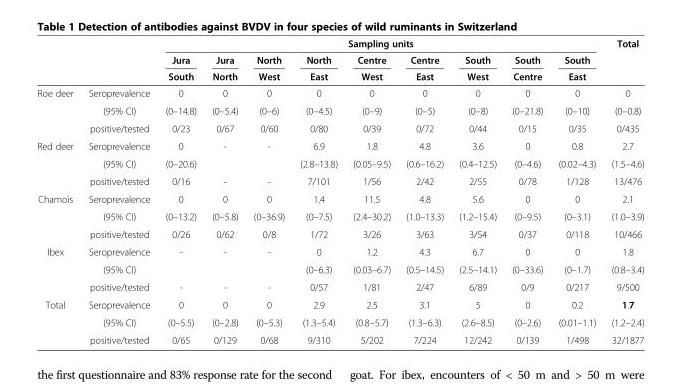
<table><thead><tr><td rowspan="3"></td><td rowspan="3"></td><td colspan="9">Sampling units</td><td rowspan="3">Total</td></tr><tr><td rowspan="2">Jura South</td><td rowspan="2">Jura North</td><td rowspan="2">North West</td><td rowspan="2">North East</td><td rowspan="2">Centre West</td><td rowspan="2">Centre East</td><td rowspan="2">South West</td><td rowspan="2">South Centre</td><td rowspan="2">South East</td></tr><tr></tr></thead><tbody><tr><td rowspan="3">Roe deer</td><td>Seroprevalence</td><td>0</td><td>0</td><td>0</td><td>0</td><td>0</td><td>0</td><td>0</td><td>0</td><td>0</td><td>0</td></tr><tr><td>(95% CI)</td><td>(0–14.8)</td><td>(0–5.4)</td><td>(0–6)</td><td>(0–4.5)</td><td>(0–9)</td><td>(0–5)</td><td>(0–8)</td><td>(0–21.8)</td><td>(0–10)</td><td>(0–0.8)</td></tr><tr><td>positive/tested</td><td>0/23</td><td>0/67</td><td>0/60</td><td>0/80</td><td>0/39</td><td>0/72</td><td>0/44</td><td>0/15</td><td>0/35</td><td>0/435</td></tr><tr><td rowspan="3">Red deer</td><td>Seroprevalence</td><td>0</td><td>-</td><td>-</td><td>6.9</td><td>1.8</td><td>4.8</td><td>3.6</td><td>0</td><td>0.8</td><td>2.7</td></tr><tr><td>(95% CI)</td><td>(0–20.6)</td><td></td><td></td><td>(2.8–13.8)</td><td>(0.05–9.5)</td><td>(0.6–16.2)</td><td>(0.4–12.5)</td><td>(0–4.6)</td><td>(0.02–4.3)</td><td>(1.5–4.6)</td></tr><tr><td>positive/tested</td><td>0/16</td><td>-</td><td>-</td><td>7/101</td><td>1/56</td><td>2/42</td><td>2/55</td><td>0/78</td><td>1/128</td><td>13/476</td></tr><tr><td rowspan="3">Chamois</td><td>Seroprevalence</td><td>0</td><td>0</td><td>0</td><td>1.4</td><td>11.5</td><td>4.8</td><td>5.6</td><td>0</td><td>0</td><td>2.1</td></tr><tr><td>(95% CI)</td><td>(0–13.2)</td><td>(0–5.8)</td><td>(0–36.9)</td><td>(0–7.5)</td><td>(2.4–30.2)</td><td>(1.0–13.3)</td><td>(1.2–15.4)</td><td>(0–9.5)</td><td>(0–3.1)</td><td>(1.0–3.9)</td></tr><tr><td>positive/tested</td><td>0/26</td><td>0/62</td><td>0/8</td><td>1/72</td><td>3/26</td><td>3/63</td><td>3/54</td><td>0/37</td><td>0/118</td><td>10/466</td></tr><tr><td rowspan="3">Ibex</td><td>Seroprevalence</td><td>-</td><td>-</td><td>-</td><td>0</td><td>1.2</td><td>4.3</td><td>6.7</td><td>0</td><td>0</td><td>1.8</td></tr><tr><td>(95% CI)</td><td></td><td></td><td></td><td>(0–6.3)</td><td>(0.03–6.7)</td><td>(0.5–14.5)</td><td>(2.5–14.1)</td><td>(0–33.6)</td><td>(0–1.7)</td><td>(0.8–3.4)</td></tr><tr><td>positive/tested</td><td>-</td><td>-</td><td>-</td><td>0/57</td><td>1/81</td><td>2/47</td><td>6/89</td><td>0/9</td><td>0/217</td><td>9/500</td></tr><tr><td rowspan="3">Total</td><td>Seroprevalence</td><td>0</td><td>0</td><td>0</td><td>2.9</td><td>2.5</td><td>3.1</td><td>5</td><td>0</td><td>0.2</td><td>1.7</td></tr><tr><td>(95% CI)</td><td>(0–5.5)</td><td>(0–2.8)</td><td>(0–5.3)</td><td>(1.3–5.4)</td><td>(0.8–5.7)</td><td>(1.3–6.3)</td><td>(2.6–8.5)</td><td>(0–2.6)</td><td>(0.01–1.1)</td><td>(1.2–2.4)</td></tr><tr><td>positive/tested</td><td>0/65</td><td>0/129</td><td>0/68</td><td>9/310</td><td>5/202</td><td>7/224</td><td>12/242</td><td>0/139</td><td>1/498</td><td>32/1877</td></tr></tbody></table>